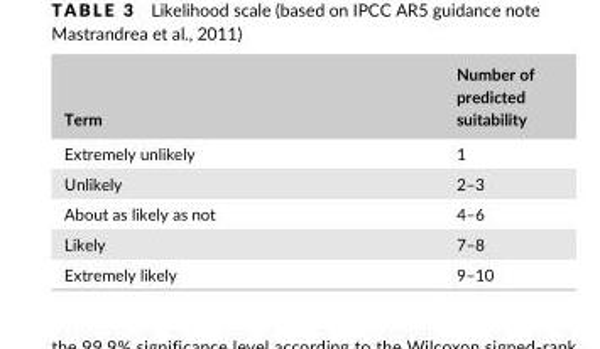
<table><thead><tr><td>Term</td><td>Number of predicted suitability</td></tr></thead><tbody><tr><td>Extremely unlikely</td><td>1</td></tr><tr><td>Unlikely</td><td>2–3</td></tr><tr><td>About as likely as not</td><td>4–6</td></tr><tr><td>Likely</td><td>7–8</td></tr><tr><td>Extremely likely</td><td>9–10</td></tr></tbody></table>